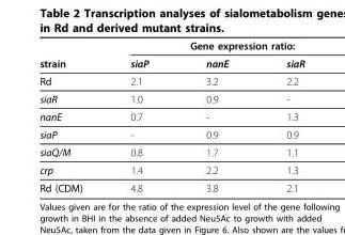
<table><thead><tr><td rowspan="2">strain</td><td colspan="3">Gene expression ratio:</td></tr><tr><td>siaP</td><td>nanE</td><td>siaR</td></tr></thead><tbody><tr><td>Rd</td><td>2.1</td><td>3.2</td><td>2.2</td></tr><tr><td>siaR</td><td>1.0</td><td>0.9</td><td>-</td></tr><tr><td>nanE</td><td>0.7</td><td>-</td><td>1.3</td></tr><tr><td>siaP</td><td>-</td><td>0.9</td><td>0.9</td></tr><tr><td>siaQ/M</td><td>0.8</td><td>1.7</td><td>1.1</td></tr><tr><td>crp</td><td>1.4</td><td>2.2</td><td>1.3</td></tr><tr><td>Rd (CDM)</td><td>4.8</td><td>3.8</td><td>2.1</td></tr></tbody></table>